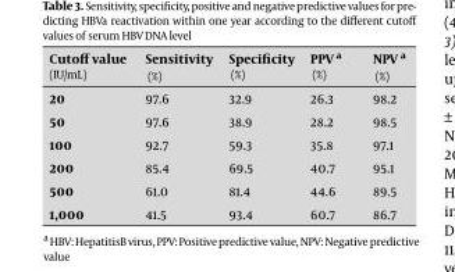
<table><thead><tr><td>Cutoff value (IU/mL)</td><td>Sensitivity (%)</td><td>Specificity (%)</td><td>PPV a (%)</td><td>NPV a (%)</td></tr></thead><tbody><tr><td>20</td><td>97.6</td><td>32.9</td><td>26.3</td><td>98.2</td></tr><tr><td>50</td><td>97.6</td><td>38.9</td><td>28.2</td><td>98.5</td></tr><tr><td>100</td><td>92.7</td><td>59.3</td><td>35.8</td><td>97.1</td></tr><tr><td>200</td><td>85.4</td><td>69.5</td><td>40.7</td><td>95.1</td></tr><tr><td>500</td><td>61.0</td><td>81.4</td><td>44.6</td><td>89.5</td></tr><tr><td>1,000</td><td>41.5</td><td>93.4</td><td>60.7</td><td>86.7</td></tr></tbody></table>